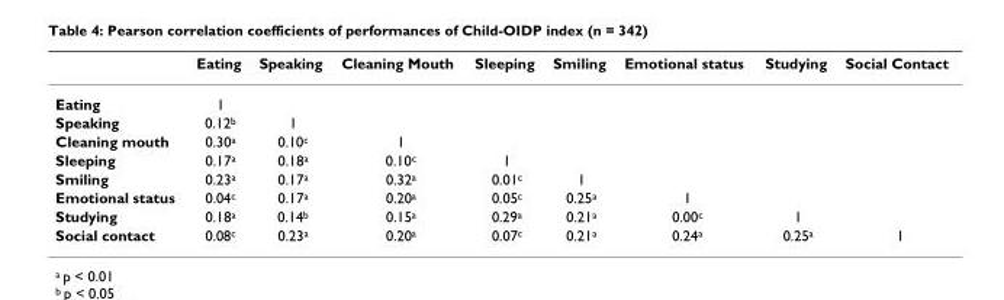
<table><thead><tr><td></td><td>Eating</td><td>Speaking</td><td>Cleaning Mouth</td><td>Sleeping</td><td>Smiling</td><td>Emotional status</td><td>Studying</td><td>Social Contact</td></tr></thead><tbody><tr><td>Eating</td><td>1</td><td></td><td></td><td></td><td></td><td></td><td></td><td></td></tr><tr><td>Speaking</td><td>0.12<sup>b</sup></td><td>1</td><td></td><td></td><td></td><td></td><td></td><td></td></tr><tr><td>Cleaning mouth</td><td>0.30<sup>a</sup></td><td>0.10<sup>c</sup></td><td>1</td><td></td><td></td><td></td><td></td><td></td></tr><tr><td>Sleeping</td><td>0.17<sup>a</sup></td><td>0.18<sup>a</sup></td><td>0.10<sup>c</sup></td><td>1</td><td></td><td></td><td></td><td></td></tr><tr><td>Smiling</td><td>0.23<sup>a</sup></td><td>0.17<sup>a</sup></td><td>0.32<sup>a</sup></td><td>0.01<sup>c</sup></td><td>1</td><td></td><td></td><td></td></tr><tr><td>Emotional status</td><td>0.04<sup>c</sup></td><td>0.17<sup>a</sup></td><td>0.20<sup>a</sup></td><td>0.05<sup>c</sup></td><td>0.25<sup>a</sup></td><td>1</td><td></td><td></td></tr><tr><td>Studying</td><td>0.18<sup>a</sup></td><td>0.14<sup>b</sup></td><td>0.15<sup>a</sup></td><td>0.29<sup>a</sup></td><td>0.21<sup>a</sup></td><td>0.00<sup>c</sup></td><td>1</td><td></td></tr><tr><td>Social contact</td><td>0.08<sup>c</sup></td><td>0.23<sup>a</sup></td><td>0.20<sup>a</sup></td><td>0.07<sup>c</sup></td><td>0.21<sup>a</sup></td><td>0.24<sup>a</sup></td><td>0.25<sup>a</sup></td><td>1</td></tr></tbody></table>